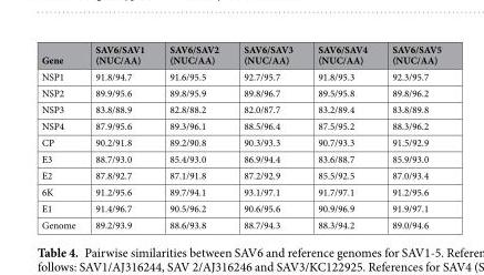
<table><thead><tr><td>Gene</td><td>SAV6/SAV1 (NUC/AA)</td><td>SAV6/SAV2 (NUC/AA)</td><td>SAV6/SAV3 (NUC/AA)</td><td>SAV6/SAV4 (NUC/AA)</td><td>SAV6/SAV5 (NUC/AA)</td></tr></thead><tbody><tr><td>NSP1</td><td>91.8/94.7</td><td>91.6/95.5</td><td>92.7/95.7</td><td>91.8/95.3</td><td>92.3/95.7</td></tr><tr><td>NSP2</td><td>89.9/95.6</td><td>89.8/95.9</td><td>89.8/96.7</td><td>89.5/95.8</td><td>89.8/96.2</td></tr><tr><td>NSP3</td><td>83.8/88.9</td><td>82.8/88.2</td><td>82.0/87.7</td><td>83.2/89.4</td><td>83.8/89.8</td></tr><tr><td>NSP4</td><td>87.9/95.6</td><td>89.3/96.1</td><td>88.5/96.4</td><td>87.5/95.2</td><td>88.3/96.2</td></tr><tr><td>CP</td><td>90.2/91.8</td><td>89.2/90.8</td><td>90.3/93.3</td><td>90.7/93.3</td><td>91.5/92.9</td></tr><tr><td>E3</td><td>88.7/93.0</td><td>85.4/93.0</td><td>86.9/94.4</td><td>83.6/88.7</td><td>85.9/93.0</td></tr><tr><td>E2</td><td>87.8/92.7</td><td>87.1/91.8</td><td>87.2/92.9</td><td>85.5/92.5</td><td>87.0/93.4</td></tr><tr><td>6K</td><td>91.2/95.6</td><td>89.7/94.1</td><td>93.1/97.1</td><td>91.7/97.1</td><td>91.2/95.6</td></tr><tr><td>E1</td><td>91.4/96.7</td><td>90.5/96.2</td><td>90.6/95.6</td><td>90.9/96.9</td><td>91.9/97.1</td></tr><tr><td>Genome</td><td>89.2/93.9</td><td>88.6/93.8</td><td>88.7/94.3</td><td>88.3/94.2</td><td>89.0/94.6</td></tr></tbody></table>